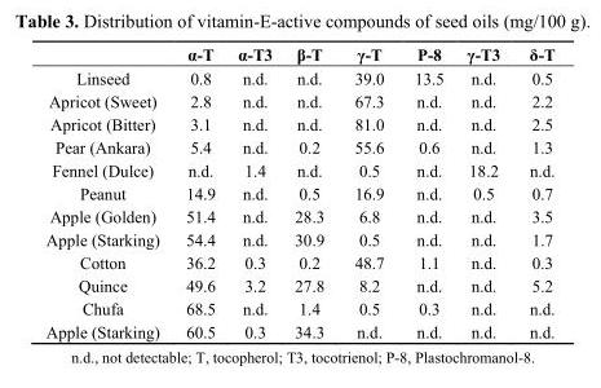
<table><thead><tr><td></td><td>α-T</td><td>α-T3</td><td>β-T</td><td>γ-T</td><td>P-8</td><td>γ-T3</td><td>δ-T</td></tr></thead><tbody><tr><td>Linseed</td><td>0.8</td><td>n.d.</td><td>n.d.</td><td>39.0</td><td>13.5</td><td>n.d.</td><td>0.5</td></tr><tr><td>Apricot (Sweet)</td><td>2.8</td><td>n.d.</td><td>n.d.</td><td>67.3</td><td>n.d.</td><td>n.d.</td><td>2.2</td></tr><tr><td>Apricot (Bitter)</td><td>3.1</td><td>n.d.</td><td>n.d.</td><td>81.0</td><td>n.d.</td><td>n.d.</td><td>2.5</td></tr><tr><td>Pear (Ankara)</td><td>5.4</td><td>n.d.</td><td>0.2</td><td>55.6</td><td>0.6</td><td>n.d.</td><td>1.3</td></tr><tr><td>Fennel (Dulce)</td><td>n.d.</td><td>1.4</td><td>n.d.</td><td>0.5</td><td>n.d.</td><td>18.2</td><td>n.d.</td></tr><tr><td>Peanut</td><td>14.9</td><td>n.d.</td><td>0.5</td><td>16.9</td><td>n.d.</td><td>0.5</td><td>0.7</td></tr><tr><td>Apple (Golden)</td><td>51.4</td><td>n.d.</td><td>28.3</td><td>6.8</td><td>n.d.</td><td>n.d.</td><td>3.5</td></tr><tr><td>Apple (Starking)</td><td>54.4</td><td>n.d.</td><td>30.9</td><td>0.5</td><td>n.d.</td><td>n.d.</td><td>1.7</td></tr><tr><td>Cotton</td><td>36.2</td><td>0.3</td><td>0.2</td><td>48.7</td><td>1.1</td><td>n.d.</td><td>0.3</td></tr><tr><td>Quince</td><td>49.6</td><td>3.2</td><td>27.8</td><td>8.2</td><td>n.d.</td><td>n.d.</td><td>5.2</td></tr><tr><td>Chufa</td><td>68.5</td><td>n.d.</td><td>1.4</td><td>0.5</td><td>0.3</td><td>n.d.</td><td>n.d.</td></tr><tr><td>Apple (Starking)</td><td>60.5</td><td>0.3</td><td>34.3</td><td>n.d.</td><td>n.d.</td><td>n.d.</td><td>n.d.</td></tr></tbody></table>